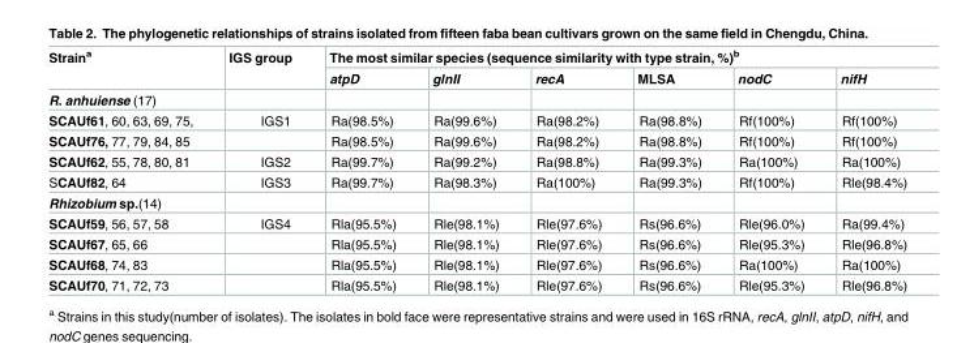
<table><thead><tr><td rowspan="2">Strain<sup>a</sup></td><td rowspan="2">IGS group</td><td colspan="6">The most similar species (sequence similarity with type strain, %)<sup>b</sup></td></tr><tr><td>atpD</td><td>glnII</td><td>recA</td><td>MLSA</td><td>nodC</td><td>nifH</td></tr></thead><tbody><tr><td colspan="8">R. anhuiense (17)</td></tr><tr><td>SCAUf61, 60, 63, 69, 75,</td><td>IGS1</td><td>Ra(98.5%)</td><td>Ra(99.6%)</td><td>Ra(98.2%)</td><td>Ra(98.8%)</td><td>Rf(100%)</td><td>Rf(100%)</td></tr><tr><td>SCAUf76, 77, 79, 84, 85</td><td></td><td>Ra(98.5%)</td><td>Ra(99.6%)</td><td>Ra(98.2%)</td><td>Ra(98.8%)</td><td>Rf(100%)</td><td>Rf(100%)</td></tr><tr><td>SCAUf62, 55, 78, 80, 81</td><td>IGS2</td><td>Ra(99.7%)</td><td>Ra(99.2%)</td><td>Ra(98.8%)</td><td>Ra(99.3%)</td><td>Ra(100%)</td><td>Ra(100%)</td></tr><tr><td>SCAUf82, 64</td><td>IGS3</td><td>Ra(99.7%)</td><td>Ra(98.3%)</td><td>Ra(100%)</td><td>Ra(99.3%)</td><td>Rf(100%)</td><td>Rle(98.4%)</td></tr><tr><td colspan="8">Rhizobium sp.(14)</td></tr><tr><td>SCAUf59, 56, 57, 58</td><td>IGS4</td><td>Rla(95.5%)</td><td>Rle(98.1%)</td><td>Rle(97.6%)</td><td>Rs(96.6%)</td><td>Rle(96.0%)</td><td>Ra(99.4%)</td></tr><tr><td>SCAUf67, 65, 66</td><td></td><td>Rla(95.5%)</td><td>Rle(98.1%)</td><td>Rle(97.6%)</td><td>Rs(96.6%)</td><td>Rle(95.3%)</td><td>Rle(96.8%)</td></tr><tr><td>SCAUf68, 74, 83</td><td></td><td>Rla(95.5%)</td><td>Rle(98.1%)</td><td>Rle(97.6%)</td><td>Rs(96.6%)</td><td>Ra(100%)</td><td>Ra(100%)</td></tr><tr><td>SCAUf70, 71, 72, 73</td><td></td><td>Rla(95.5%)</td><td>Rle(98.1%)</td><td>Rle(97.6%)</td><td>Rs(96.6%)</td><td>Rle(95.3%)</td><td>Rle(96.8%)</td></tr></tbody></table>